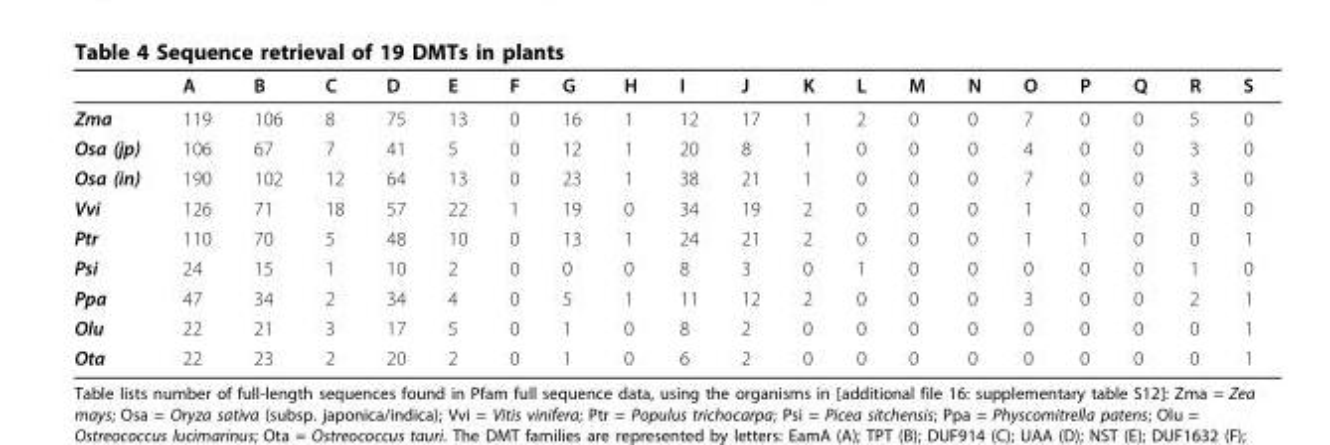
<table><thead><tr><td></td><td>A</td><td>B</td><td>C</td><td>D</td><td>E</td><td>F</td><td>G</td><td>H</td><td>I</td><td>J</td><td>K</td><td>L</td><td>M</td><td>N</td><td>O</td><td>P</td><td>Q</td><td>R</td><td>S</td></tr></thead><tbody><tr><td>Zma</td><td>119</td><td>106</td><td>8</td><td>75</td><td>13</td><td>0</td><td>16</td><td>1</td><td>12</td><td>17</td><td>1</td><td>2</td><td>0</td><td>0</td><td>7</td><td>0</td><td>0</td><td>5</td><td>0</td></tr><tr><td>Osa (jp)</td><td>106</td><td>67</td><td>7</td><td>41</td><td>5</td><td>0</td><td>12</td><td>1</td><td>20</td><td>8</td><td>1</td><td>0</td><td>0</td><td>0</td><td>4</td><td>0</td><td>0</td><td>3</td><td>0</td></tr><tr><td>Osa (in)</td><td>190</td><td>102</td><td>12</td><td>64</td><td>13</td><td>0</td><td>23</td><td>1</td><td>38</td><td>21</td><td>1</td><td>0</td><td>0</td><td>0</td><td>7</td><td>0</td><td>0</td><td>3</td><td>0</td></tr><tr><td>Vvi</td><td>126</td><td>71</td><td>18</td><td>57</td><td>22</td><td>1</td><td>19</td><td>0</td><td>34</td><td>19</td><td>2</td><td>0</td><td>0</td><td>0</td><td>1</td><td>0</td><td>0</td><td>0</td><td>0</td></tr><tr><td>Ptr</td><td>110</td><td>70</td><td>5</td><td>48</td><td>10</td><td>0</td><td>13</td><td>1</td><td>24</td><td>21</td><td>2</td><td>0</td><td>0</td><td>0</td><td>1</td><td>1</td><td>0</td><td>0</td><td>1</td></tr><tr><td>Psi</td><td>24</td><td>15</td><td>1</td><td>10</td><td>2</td><td>0</td><td>0</td><td>0</td><td>8</td><td>3</td><td>0</td><td>1</td><td>0</td><td>0</td><td>0</td><td>0</td><td>0</td><td>1</td><td>0</td></tr><tr><td>Ppa</td><td>47</td><td>34</td><td>2</td><td>34</td><td>4</td><td>0</td><td>5</td><td>1</td><td>11</td><td>12</td><td>2</td><td>0</td><td>0</td><td>0</td><td>3</td><td>0</td><td>0</td><td>2</td><td>1</td></tr><tr><td>Olu</td><td>22</td><td>21</td><td>3</td><td>17</td><td>5</td><td>0</td><td>1</td><td>0</td><td>8</td><td>2</td><td>0</td><td>0</td><td>0</td><td>0</td><td>0</td><td>0</td><td>0</td><td>0</td><td>1</td></tr><tr><td>Ota</td><td>22</td><td>23</td><td>2</td><td>20</td><td>2</td><td>0</td><td>1</td><td>0</td><td>6</td><td>2</td><td>0</td><td>0</td><td>0</td><td>0</td><td>0</td><td>0</td><td>0</td><td>0</td><td>1</td></tr></tbody></table>